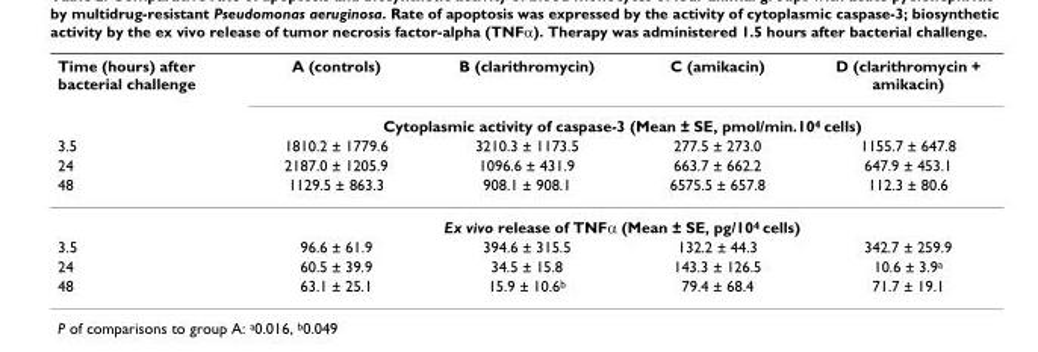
<table><thead><tr><td rowspan="5">Time (hours) after bacterial challenge 3.5 24 48</td><td>A (controls)</td><td>B (clarithromycin)</td><td>C (amikacin)</td><td>D (clarithromycin + amikacin)</td></tr><tr><td colspan="4">Cytoplasmic activity of caspase-3 (Mean ± SE, pmol/min.10<sup>4</sup> cells)</td></tr><tr><td rowspan="3">1810.2 ± 1779.6 2187.0 ± 1205.9 1129.5 ± 863.3</td><td rowspan="3">3210.3 ± 1173.5 1096.6 ± 431.9 908.1 ± 908.1</td><td rowspan="3">277.5 ± 273.0 663.7 ± 662.2 6575.5 ± 657.8</td><td rowspan="3">1155.7 ± 647.8 647.9 ± 453.1 112.3 ± 80.6</td></tr><tr></tr><tr></tr></thead><tbody><tr><td></td><td colspan="4">Ex vivo release of TNFα (Mean ± SE, pg/10<sup>4</sup> cells)</td></tr><tr><td>3.5</td><td>96.6 ± 61.9</td><td>394.6 ± 315.5</td><td>132.2 ± 44.3</td><td>342.7 ± 259.9</td></tr><tr><td>24</td><td>60.5 ± 39.9</td><td>34.5 ± 15.8</td><td>143.3 ± 126.5</td><td>10.6 ± 3.9<sup>a</sup></td></tr><tr><td>48</td><td>63.1 ± 25.1</td><td>15.9 ± 10.6<sup>b</sup></td><td>79.4 ± 68.4</td><td>71.7 ± 19.1</td></tr></tbody></table>